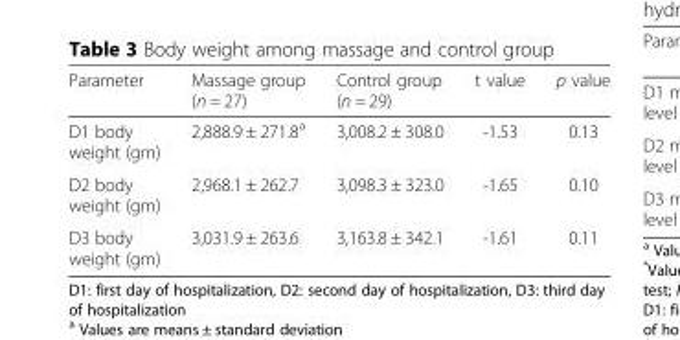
<table><thead><tr><td>Parameter</td><td>Massage group (n = 27)</td><td>Control group (n = 29)</td><td>t value</td><td>p value</td></tr></thead><tbody><tr><td>D1 body weight (gm)</td><td>2,888.9 ± 271.8<sup>a</sup></td><td>3,008.2 ± 308.0</td><td>-1.53</td><td>0.13</td></tr><tr><td>D2 body weight (gm)</td><td>2,968.1 ± 262.7</td><td>3,098.3 ± 323.0</td><td>-1.65</td><td>0.10</td></tr><tr><td>D3 body weight (gm)</td><td>3,031.9 ± 263.6</td><td>3,163.8 ± 342.1</td><td>-1.61</td><td>0.11</td></tr></tbody></table>